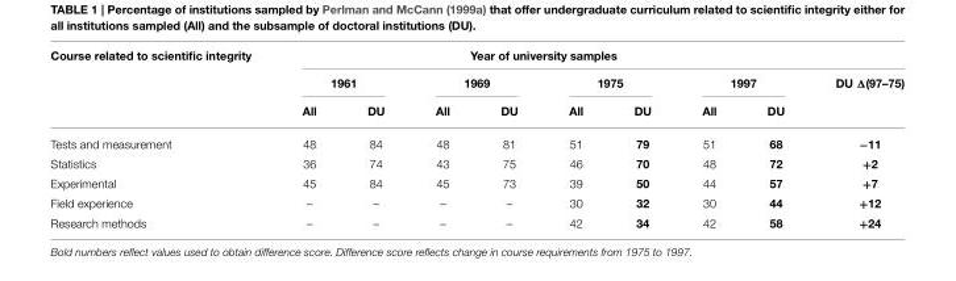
<table><thead><tr><td rowspan="3">Course related to scientific integrity</td><td colspan="9">Year of university samples</td></tr><tr><td colspan="2">1961</td><td colspan="2">1969</td><td colspan="2">1975</td><td colspan="2">1997</td><td rowspan="2">DU Δ(97–75)</td></tr><tr><td>All</td><td>DU</td><td>All</td><td>DU</td><td>All</td><td>DU</td><td>All</td><td>DU</td></tr></thead><tbody><tr><td>Tests and measurement</td><td>48</td><td>84</td><td>48</td><td>81</td><td>51</td><td>79</td><td>51</td><td>68</td><td>−11</td></tr><tr><td>Statistics</td><td>36</td><td>74</td><td>43</td><td>75</td><td>46</td><td>70</td><td>48</td><td>72</td><td>+2</td></tr><tr><td>Experimental</td><td>45</td><td>84</td><td>45</td><td>73</td><td>39</td><td>50</td><td>44</td><td>57</td><td>+7</td></tr><tr><td>Field experience</td><td>–</td><td>–</td><td>–</td><td>–</td><td>30</td><td>32</td><td>30</td><td>44</td><td>+12</td></tr><tr><td>Research methods</td><td>–</td><td>–</td><td>–</td><td>–</td><td>42</td><td>34</td><td>42</td><td>58</td><td>+24</td></tr></tbody></table>